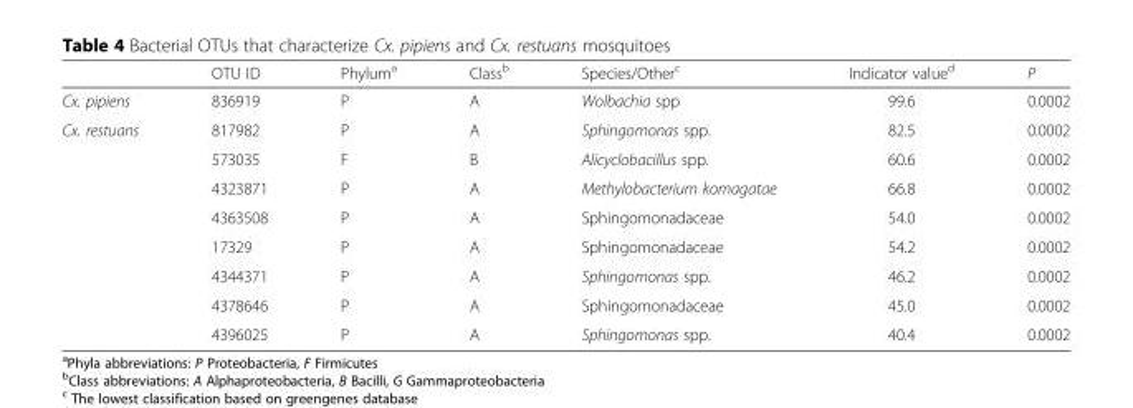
<table><thead><tr><td></td><td>OTU ID</td><td>Phylum<sup>a</sup></td><td>Class<sup>b</sup></td><td>Species/Other<sup>c</sup></td><td>Indicator value<sup>d</sup></td><td>P</td></tr></thead><tbody><tr><td>Cx. pipiens</td><td>836919</td><td>P</td><td>A</td><td>Wolbachia spp</td><td>99.6</td><td>0.0002</td></tr><tr><td rowspan="8">Cx. restuans</td><td>817982</td><td>P</td><td>A</td><td>Sphingomonas spp.</td><td>82.5</td><td>0.0002</td></tr><tr><td>573035</td><td>F</td><td>B</td><td>Alicyclobacillus spp.</td><td>60.6</td><td>0.0002</td></tr><tr><td>4323871</td><td>P</td><td>A</td><td>Methylobacterium komagatae</td><td>66.8</td><td>0.0002</td></tr><tr><td>4363508</td><td>P</td><td>A</td><td>Sphingomonadaceae</td><td>54.0</td><td>0.0002</td></tr><tr><td>17329</td><td>P</td><td>A</td><td>Sphingomonadaceae</td><td>54.2</td><td>0.0002</td></tr><tr><td>4344371</td><td>P</td><td>A</td><td>Sphingomonas spp.</td><td>46.2</td><td>0.0002</td></tr><tr><td>4378646</td><td>P</td><td>A</td><td>Sphingomonadaceae</td><td>45.0</td><td>0.0002</td></tr><tr><td>4396025</td><td>P</td><td>A</td><td>Sphingomonas spp.</td><td>40.4</td><td>0.0002</td></tr></tbody></table>